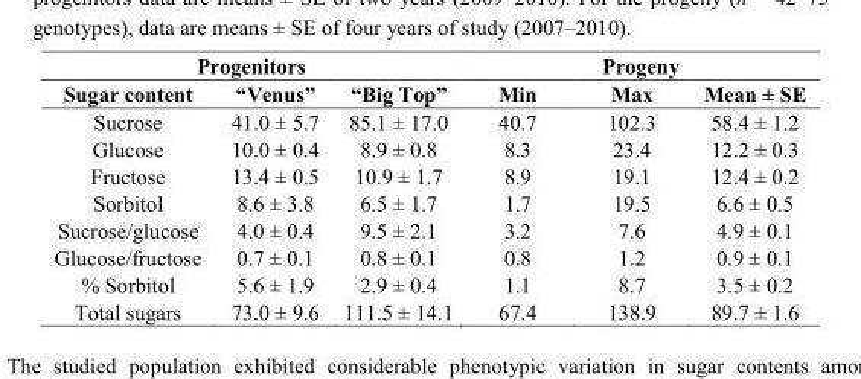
<table><thead><tr><td colspan="3">Progenitors</td><td colspan="3">Progeny</td></tr><tr><td>Sugar content</td><td>“Venus”</td><td>“Big Top”</td><td>Min</td><td>Max</td><td>Mean ± SE</td></tr></thead><tbody><tr><td>Sucrose</td><td>41.0 ± 5.7</td><td>85.1 ± 17.0</td><td>40.7</td><td>102.3</td><td>58.4 ± 1.2</td></tr><tr><td>Glucose</td><td>10.0 ± 0.4</td><td>8.9 ± 0.8</td><td>8.3</td><td>23.4</td><td>12.2 ± 0.3</td></tr><tr><td>Fructose</td><td>13.4 ± 0.5</td><td>10.9 ± 1.7</td><td>8.9</td><td>19.1</td><td>12.4 ± 0.2</td></tr><tr><td>Sorbitol</td><td>8.6 ± 3.8</td><td>6.5 ± 1.7</td><td>1.7</td><td>19.5</td><td>6.6 ± 0.5</td></tr><tr><td>Sucrose/glucose</td><td>4.0 ± 0.4</td><td>9.5 ± 2.1</td><td>3.2</td><td>7.6</td><td>4.9 ± 0.1</td></tr><tr><td>Glucose/fructose</td><td>0.7 ± 0.1</td><td>0.8 ± 0.1</td><td>0.8</td><td>1.2</td><td>0.9 ± 0.1</td></tr><tr><td>% Sorbitol</td><td>5.6 ± 1.9</td><td>2.9 ± 0.4</td><td>1.1</td><td>8.7</td><td>3.5 ± 0.2</td></tr><tr><td>Total sugars</td><td>73.0 ± 9.6</td><td>111.5 ± 14.1</td><td>67.4</td><td>138.9</td><td>89.7 ± 1.6</td></tr></tbody></table>